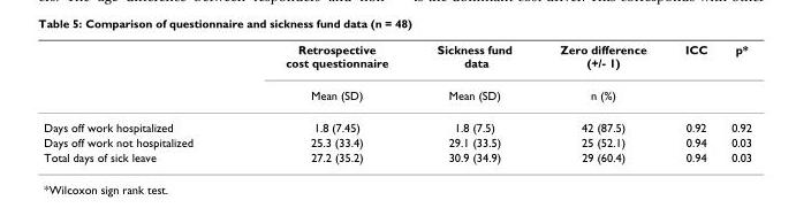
<table><thead><tr><td rowspan="2"></td><td rowspan="2">Retrospective cost questionnaire Mean (SD)</td><td rowspan="2">Sickness fund data Mean (SD)</td><td rowspan="2">Zero difference (+/- 1) n (%)</td><td rowspan="2">ICC</td><td rowspan="2">p*</td></tr><tr></tr></thead><tbody><tr><td>Days off work hospitalized</td><td>1.8 (7.45)</td><td>1.8 (7.5)</td><td>42 (87.5)</td><td>0.92</td><td>0.92</td></tr><tr><td>Days off work not hospitalized</td><td>25.3 (33.4)</td><td>29.1 (33.5)</td><td>25 (52.1)</td><td>0.94</td><td>0.03</td></tr><tr><td>Total days of sick leave</td><td>27.2 (35.2)</td><td>30.9 (34.9)</td><td>29 (60.4)</td><td>0.94</td><td>0.03</td></tr></tbody></table>